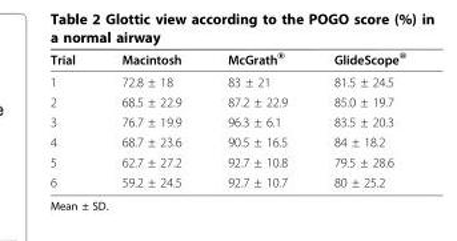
<table><thead><tr><td>Trial</td><td>Macintosh</td><td>McGrath<sup>®</sup></td><td>GlideScope<sup>®</sup></td></tr></thead><tbody><tr><td>1</td><td>72.8 ± 18</td><td>83 ± 21</td><td>81.5 ± 24.5</td></tr><tr><td>2</td><td>68.5 ± 22.9</td><td>87.2 ± 22.9</td><td>85.0 ± 19.7</td></tr><tr><td>3</td><td>76.7 ± 19.9</td><td>96.3 ± 6.1</td><td>83.5 ± 20.3</td></tr><tr><td>4</td><td>68.7 ± 23.6</td><td>90.5 ± 16.5</td><td>84 ± 18.2</td></tr><tr><td>5</td><td>62.7 ± 27.2</td><td>92.7 ± 10.8</td><td>79.5 ± 28.6</td></tr><tr><td>6</td><td>59.2 ± 24.5</td><td>92.7 ± 10.7</td><td>80 ± 25.2</td></tr></tbody></table>